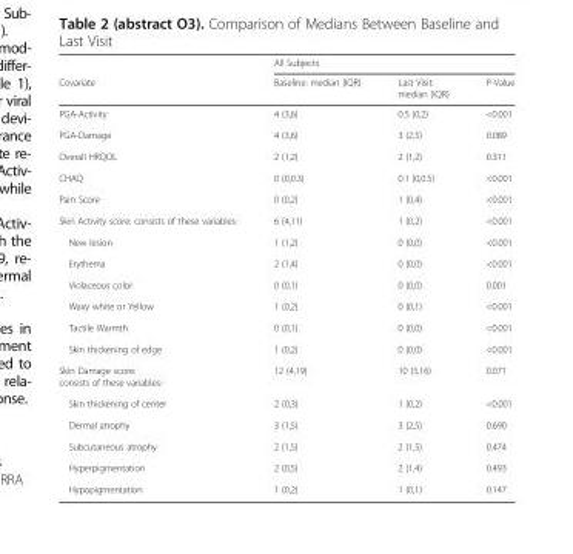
<table><thead><tr><td rowspan="2">Covariate</td><td colspan="3">All Subjects</td></tr><tr><td>Baseline: median (IQR)</td><td>Last Visit: median (IQR)</td><td>P-Value</td></tr></thead><tbody><tr><td>PGA-Activity</td><td>4 (3,6)</td><td>0.5 (0,2)</td><td>&lt;0.001</td></tr><tr><td>PGA-Damage</td><td>4 (3,6)</td><td>3 (2,5)</td><td>0.089</td></tr><tr><td>Overall HRQOL</td><td>2 (1,2)</td><td>2 (1,2)</td><td>0.311</td></tr><tr><td>CHAQ</td><td>0 (0,0.3)</td><td>0.1 (0,0.5)</td><td>&lt;0.001</td></tr><tr><td>Pain Score</td><td>0 (0,2)</td><td>1 (0,4)</td><td>&lt;0.001</td></tr><tr><td>Skin Activity score: consists of these variables:</td><td>6 (4,11)</td><td>1 (0,2)</td><td>&lt;0.001</td></tr><tr><td>New lesion</td><td>1 (1,2)</td><td>0 (0,0)</td><td>&lt;0.001</td></tr><tr><td>Erythema</td><td>2 (1,4)</td><td>0 (0,0)</td><td>&lt;0.001</td></tr><tr><td>Violaceous color</td><td>0 (0,1)</td><td>0 (0,0)</td><td>0.001</td></tr><tr><td>Waxy white or Yellow</td><td>1 (0,2)</td><td>0 (0,1)</td><td>&lt;0.001</td></tr><tr><td>Tactile Warmth</td><td>0 (0,1)</td><td>0 (0,0)</td><td>&lt;0.001</td></tr><tr><td>Skin thickening of edge</td><td>1 (0,2)</td><td>0 (0,0)</td><td>&lt;0.001</td></tr><tr><td>Skin Damage score: consists of these variables:</td><td>12 (4,19)</td><td>10 (5,16)</td><td>0.071</td></tr><tr><td>Skin thickening of center</td><td>2 (0,3)</td><td>1 (0,2)</td><td>&lt;0.001</td></tr><tr><td>Dermal atrophy</td><td>3 (1,5)</td><td>3 (2,5)</td><td>0.690</td></tr><tr><td>Subcutaneous atrophy</td><td>2 (1,5)</td><td>2 (1,5)</td><td>0.474</td></tr><tr><td>Hyperpigmentation</td><td>2 (0,5)</td><td>2 (1,4)</td><td>0.493</td></tr><tr><td>Hypopigmentation</td><td>1 (0,2)</td><td>1 (0,1)</td><td>0.147</td></tr></tbody></table>